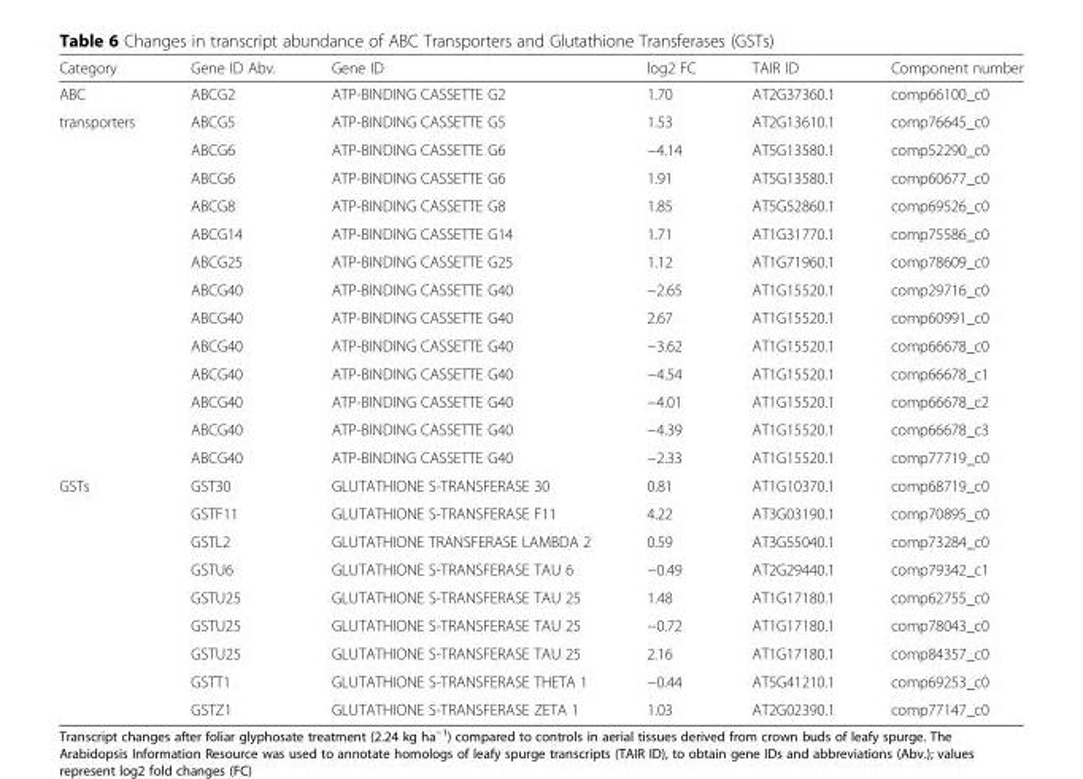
<table><thead><tr><td>Category</td><td>Gene ID Abv.</td><td>Gene ID</td><td>log2 FC</td><td>TAIR ID</td><td>Component number</td></tr></thead><tbody><tr><td>ABC</td><td>ABCG2</td><td>ATP-BINDING CASSETTE G2</td><td>1.70</td><td>AT2G37360.1</td><td>comp66100_c0</td></tr><tr><td rowspan="13">transporters</td><td>ABCG5</td><td>ATP-BINDING CASSETTE G5</td><td>1.53</td><td>AT2G13610.1</td><td>comp76645_c0</td></tr><tr><td>ABCG6</td><td>ATP-BINDING CASSETTE G6</td><td>−4.14</td><td>AT5G13580.1</td><td>comp52290_c0</td></tr><tr><td>ABCG6</td><td>ATP-BINDING CASSETTE G6</td><td>1.91</td><td>AT5G13580.1</td><td>comp60677_c0</td></tr><tr><td>ABCG8</td><td>ATP-BINDING CASSETTE G8</td><td>1.85</td><td>AT5G52860.1</td><td>comp69526_c0</td></tr><tr><td>ABCG14</td><td>ATP-BINDING CASSETTE G14</td><td>1.71</td><td>AT1G31770.1</td><td>comp75586_c0</td></tr><tr><td>ABCG25</td><td>ATP-BINDING CASSETTE G25</td><td>1.12</td><td>AT1G71960.1</td><td>comp78609_c0</td></tr><tr><td>ABCG40</td><td>ATP-BINDING CASSETTE G40</td><td>−2.65</td><td>AT1G15520.1</td><td>comp29716_c0</td></tr><tr><td>ABCG40</td><td>ATP-BINDING CASSETTE G40</td><td>2.67</td><td>AT1G15520.1</td><td>comp60991_c0</td></tr><tr><td>ABCG40</td><td>ATP-BINDING CASSETTE G40</td><td>−3.62</td><td>AT1G15520.1</td><td>comp66678_c0</td></tr><tr><td>ABCG40</td><td>ATP-BINDING CASSETTE G40</td><td>−4.54</td><td>AT1G15520.1</td><td>comp66678_c1</td></tr><tr><td>ABCG40</td><td>ATP-BINDING CASSETTE G40</td><td>−4.01</td><td>AT1G15520.1</td><td>comp66678_c2</td></tr><tr><td>ABCG40</td><td>ATP-BINDING CASSETTE G40</td><td>−4.39</td><td>AT1G15520.1</td><td>comp66678_c3</td></tr><tr><td>ABCG40</td><td>ATP-BINDING CASSETTE G40</td><td>−2.33</td><td>AT1G15520.1</td><td>comp77719_c0</td></tr><tr><td rowspan="9">GSTs</td><td>GST30</td><td>GLUTATHIONE S-TRANSFERASE 30</td><td>0.81</td><td>AT1G10370.1</td><td>comp68719_c0</td></tr><tr><td>GSTF11</td><td>GLUTATHIONE S-TRANSFERASE F11</td><td>4.22</td><td>AT3G03190.1</td><td>comp70895_c0</td></tr><tr><td>GSTL2</td><td>GLUTATHIONE TRANSFERASE LAMBDA 2</td><td>0.59</td><td>AT3G55040.1</td><td>comp73284_c0</td></tr><tr><td>GSTU6</td><td>GLUTATHIONE S-TRANSFERASE TAU 6</td><td>−0.49</td><td>AT2G29440.1</td><td>comp79342_c1</td></tr><tr><td>GSTU25</td><td>GLUTATHIONE S-TRANSFERASE TAU 25</td><td>1.48</td><td>AT1G17180.1</td><td>comp62755_c0</td></tr><tr><td>GSTU25</td><td>GLUTATHIONE S-TRANSFERASE TAU 25</td><td>−0.72</td><td>AT1G17180.1</td><td>comp78043_c0</td></tr><tr><td>GSTU25</td><td>GLUTATHIONE S-TRANSFERASE TAU 25</td><td>2.16</td><td>AT1G17180.1</td><td>comp84357_c0</td></tr><tr><td>GSTT1</td><td>GLUTATHIONE S-TRANSFERASE THETA 1</td><td>−0.44</td><td>AT5G41210.1</td><td>comp69253_c0</td></tr><tr><td>GSTZ1</td><td>GLUTATHIONE S-TRANSFERASE ZETA 1</td><td>1.03</td><td>AT2G02390.1</td><td>comp77147_c0</td></tr></tbody></table>